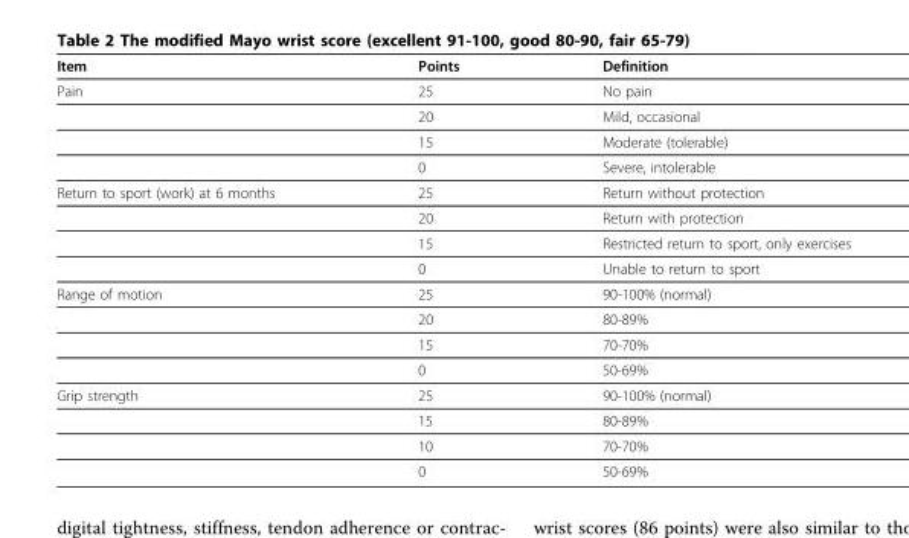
<table><thead><tr><td>Item</td><td>Points</td><td>Definition</td></tr></thead><tbody><tr><td rowspan="4">Pain</td><td>25</td><td>No pain</td></tr><tr><td>20</td><td>Mild, occasional</td></tr><tr><td>15</td><td>Moderate (tolerable)</td></tr><tr><td>0</td><td>Severe, intolerable</td></tr><tr><td rowspan="4">Return to sport (work) at 6 months</td><td>25</td><td>Return without protection</td></tr><tr><td>20</td><td>Return with protection</td></tr><tr><td>15</td><td>Restricted return to sport, only exercises</td></tr><tr><td>0</td><td>Unable to return to sport</td></tr><tr><td rowspan="4">Range of motion</td><td>25</td><td>90-100% (normal)</td></tr><tr><td>20</td><td>80-89%</td></tr><tr><td>15</td><td>70-70%</td></tr><tr><td>0</td><td>50-69%</td></tr><tr><td rowspan="4">Grip strength</td><td>25</td><td>90-100% (normal)</td></tr><tr><td>15</td><td>80-89%</td></tr><tr><td>10</td><td>70-70%</td></tr><tr><td>0</td><td>50-69%</td></tr></tbody></table>